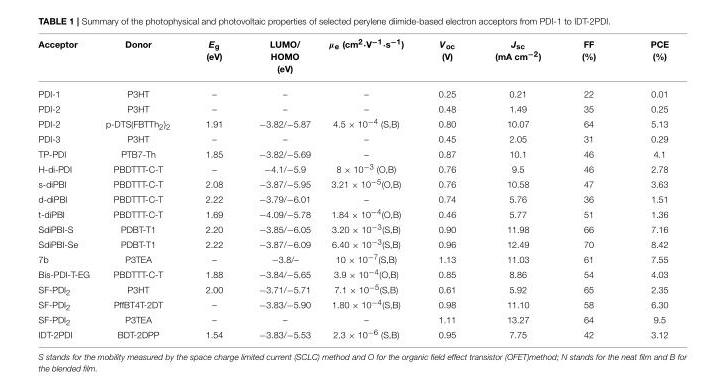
<table><thead><tr><td>Acceptor</td><td>Donor</td><td>E<sub>g</sub> (eV)</td><td>LUMO/ HOMO (eV)</td><td>µ<sub>e</sub> (cm<sup>2</sup>·V<sup>−1</sup>·s<sup>−1</sup>)</td><td>V<sub>oc</sub> (V)</td><td>J<sub>sc</sub> (mA cm<sup>−2</sup>)</td><td>FF (%)</td><td>PCE (%)</td></tr></thead><tbody><tr><td>PDI-1</td><td>P3HT</td><td>–</td><td>–</td><td>–</td><td>0.25</td><td>0.21</td><td>22</td><td>0.01</td></tr><tr><td>PDI-2</td><td>P3HT</td><td>–</td><td>–</td><td>–</td><td>0.48</td><td>1.49</td><td>35</td><td>0.25</td></tr><tr><td>PDI-2</td><td>p-DTS(FBTTh<sub>2</sub>)<sub>2</sub></td><td>1.91</td><td>−3.82/−5.87</td><td>4.5 × 10<sup>−4</sup> (S,B)</td><td>0.80</td><td>10.07</td><td>64</td><td>5.13</td></tr><tr><td>PDI-3</td><td>P3HT</td><td>–</td><td>–</td><td>–</td><td>0.45</td><td>2.05</td><td>31</td><td>0.29</td></tr><tr><td>TP-PDI</td><td>PTB7-Th</td><td>1.85</td><td>−3.82/−5.69</td><td>–</td><td>0.87</td><td>10.1</td><td>46</td><td>4.1</td></tr><tr><td>H-di-PDI</td><td>PBDTTT-C-T</td><td>–</td><td>−4.1/−5.9</td><td>8 × 10<sup>−3</sup> (O,B)</td><td>0.76</td><td>9.5</td><td>46</td><td>2.78</td></tr><tr><td>s-diPBI</td><td>PBDTTT-C-T</td><td>2.08</td><td>−3.87/−5.95</td><td>3.21 × 10<sup>−5</sup>(O,B)</td><td>0.76</td><td>10.58</td><td>47</td><td>3.63</td></tr><tr><td>d-diPBI</td><td>PBDTTT-C-T</td><td>2.22</td><td>−3.79/−6.01</td><td>–</td><td>0.74</td><td>5.76</td><td>36</td><td>1.51</td></tr><tr><td>t-diPBI</td><td>PBDTTT-C-T</td><td>1.69</td><td>−4.09/−5.78</td><td>1.84 × 10<sup>−4</sup>(O,B)</td><td>0.46</td><td>5.77</td><td>51</td><td>1.36</td></tr><tr><td>SdiPBI-S</td><td>PDBT-T1</td><td>2.20</td><td>−3.85/−6.05</td><td>3.20 × 10<sup>−3</sup>(S,B)</td><td>0.90</td><td>11.98</td><td>66</td><td>7.16</td></tr><tr><td>SdiPBI-Se</td><td>PDBT-T1</td><td>2.22</td><td>−3.87/−6.09</td><td>6.40 × 10<sup>−3</sup>(S,B)</td><td>0.96</td><td>12.49</td><td>70</td><td>8.42</td></tr><tr><td>7b</td><td>P3TEA</td><td>–</td><td>−3.8/–</td><td>10 × 10<sup>−7</sup>(S,B)</td><td>1.13</td><td>11.03</td><td>61</td><td>7.55</td></tr><tr><td>Bis-PDI-T-EG</td><td>PBDTTT-C-T</td><td>1.88</td><td>−3.84/−5.65</td><td>3.9 × 10<sup>−4</sup>(O,B)</td><td>0.85</td><td>8.86</td><td>54</td><td>4.03</td></tr><tr><td>SF-PDI<sub>2</sub></td><td>P3HT</td><td>2.00</td><td>−3.71/−5.71</td><td>7.1 × 10<sup>−5</sup>(S,B)</td><td>0.61</td><td>5.92</td><td>65</td><td>2.35</td></tr><tr><td>SF-PDI<sub>2</sub></td><td>PffBT4T-2DT</td><td>–</td><td>−3.83/−5.90</td><td>1.80 × 10<sup>−4</sup>(S,B)</td><td>0.98</td><td>11.10</td><td>58</td><td>6.30</td></tr><tr><td>SF-PDI<sub>2</sub></td><td>P3TEA</td><td>–</td><td>–</td><td>–</td><td>1.11</td><td>13.27</td><td>64</td><td>9.5</td></tr><tr><td>IDT-2PDI</td><td>BDT-2DPP</td><td>1.54</td><td>−3.83/−5.53</td><td>2.3 × 10<sup>−6</sup> (S,B)</td><td>0.95</td><td>7.75</td><td>42</td><td>3.12</td></tr></tbody></table>